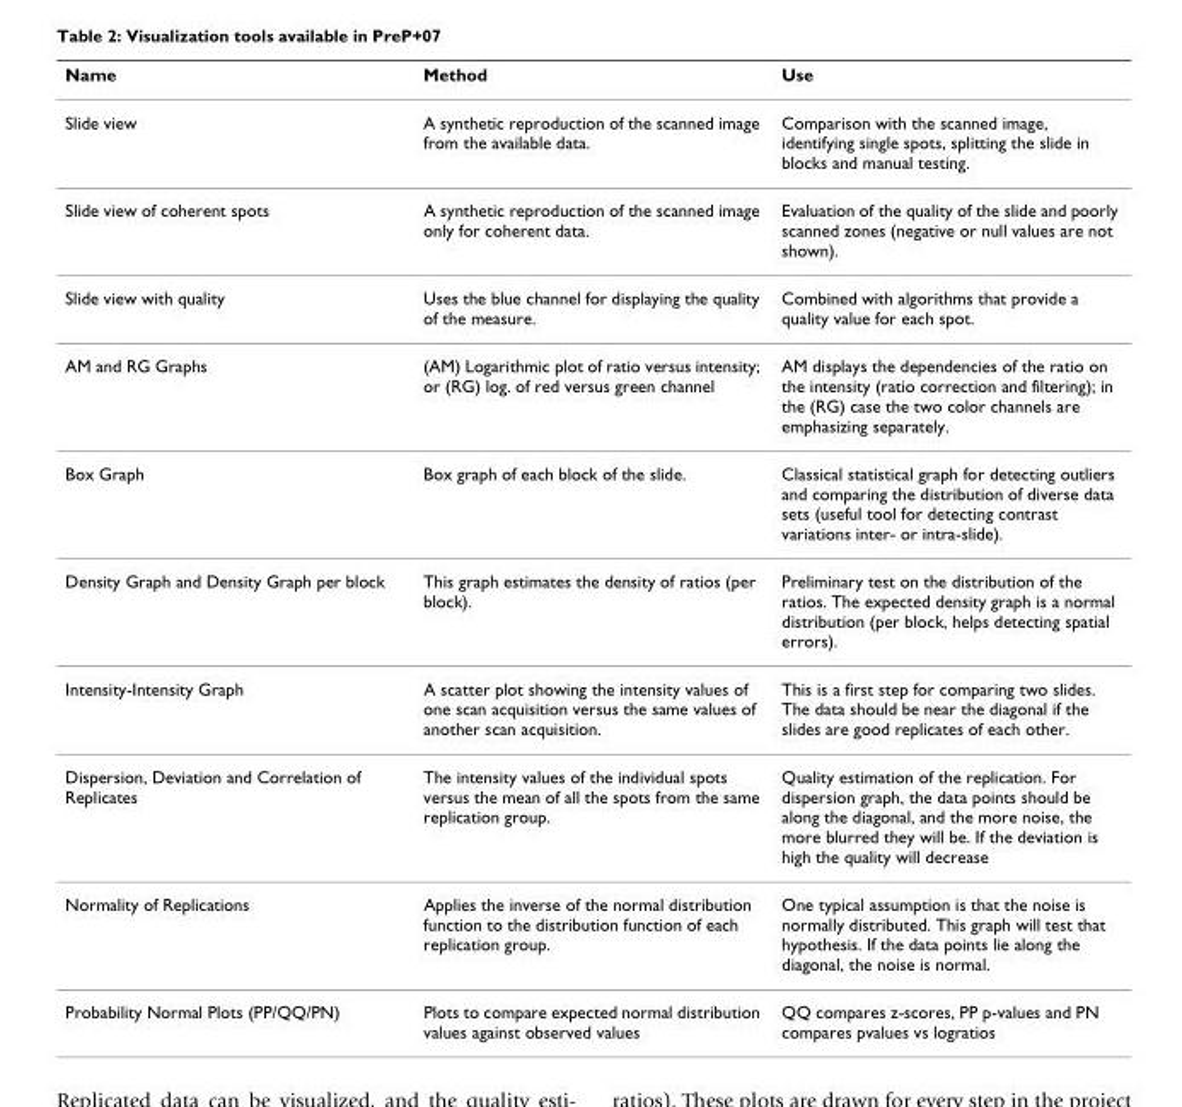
<table><thead><tr><td>Name</td><td>Method</td><td>Use</td></tr></thead><tbody><tr><td>Slide view</td><td>A synthetic reproduction of the scanned image from the available data.</td><td>Comparison with the scanned image, identifying single spots, splitting the slide in blocks and manual testing.</td></tr><tr><td>Slide view of coherent spots</td><td>A synthetic reproduction of the scanned image only for coherent data.</td><td>Evaluation of the quality of the slide and poorly scanned zones (negative or null values are not shown).</td></tr><tr><td>Slide view with quality</td><td>Uses the blue channel for displaying the quality of the measure.</td><td>Combined with algorithms that provide a quality value for each spot.</td></tr><tr><td>AM and RG Graphs</td><td>(AM) Logarithmic plot of ratio versus intensity; or (RG) log. of red versus green channel</td><td>AM displays the dependencies of the ratio on the intensity (ratio correction and filtering); in the (RG) case the two color channels are emphasizing separately.</td></tr><tr><td>Box Graph</td><td>Box graph of each block of the slide.</td><td>Classical statistical graph for detecting outliers and comparing the distribution of diverse data sets (useful tool for detecting contrast variations inter- or intra-slide).</td></tr><tr><td>Density Graph and Density Graph per block</td><td>This graph estimates the density of ratios (per block).</td><td>Preliminary test on the distribution of the ratios. The expected density graph is a normal distribution (per block, helps detecting spatial errors).</td></tr><tr><td>Intensity-Intensity Graph</td><td>A scatter plot showing the intensity values of one scan acquisition versus the same values of another scan acquisition.</td><td>This is a first step for comparing two slides. The data should be near the diagonal if the slides are good replicates of each other.</td></tr><tr><td>Dispersion, Deviation and Correlation of Replicates</td><td>The intensity values of the individual spots versus the mean of all the spots from the same replication group.</td><td>Quality estimation of the replication. For dispersion graph, the data points should be along the diagonal, and the more noise, the more blurred they will be. If the deviation is high the quality will decrease</td></tr><tr><td>Normality of Replications</td><td>Applies the inverse of the normal distribution function to the distribution function of each replication group.</td><td>One typical assumption is that the noise is normally distributed. This graph will test that hypothesis. If the data points lie along the diagonal, the noise is normal.</td></tr><tr><td>Probability Normal Plots (PP/QQ/PN)</td><td>Plots to compare expected normal distribution values against observed values</td><td>QQ compares z-scores, PP p-values and PN compares pvalues vs logratios</td></tr></tbody></table>